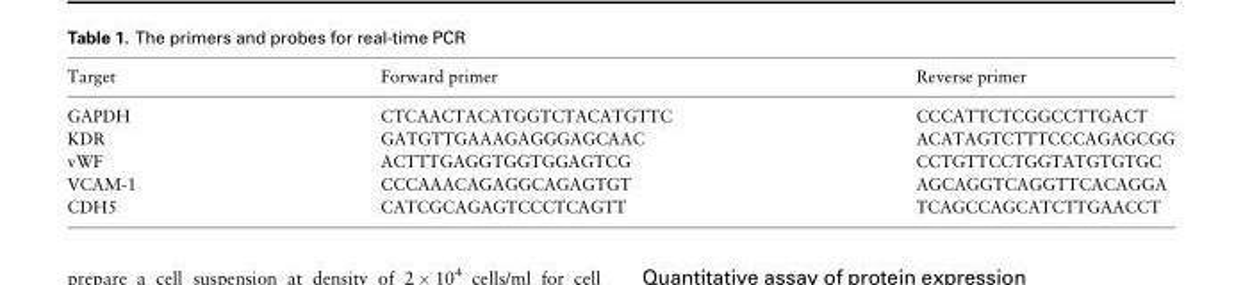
<table><thead><tr><td>Target</td><td>Forward primer</td><td>Reverse primer</td></tr></thead><tbody><tr><td>GAPDH</td><td>CTCAACTACATGGTCTACATGTTC</td><td>CCCATTCTCGGCCTTGACT</td></tr><tr><td>KDR</td><td>GATGTTGAAAGAGGGAGCAAC</td><td>ACATAGTCTTTCCCAGAGCGG</td></tr><tr><td>vWF</td><td>ACTTTGAGGTGGTGGAGTCG</td><td>CCTGTTCCTGGTATGTGTGC</td></tr><tr><td>VCAM-1</td><td>CCCAAACAGAGGCAGAGTGT</td><td>AGCAGGTCAGGTTCACAGGA</td></tr><tr><td>CDH5</td><td>CATCGCAGAGTCCCTCAGTT</td><td>TCAGCCAGCATCTTGAACCT</td></tr></tbody></table>